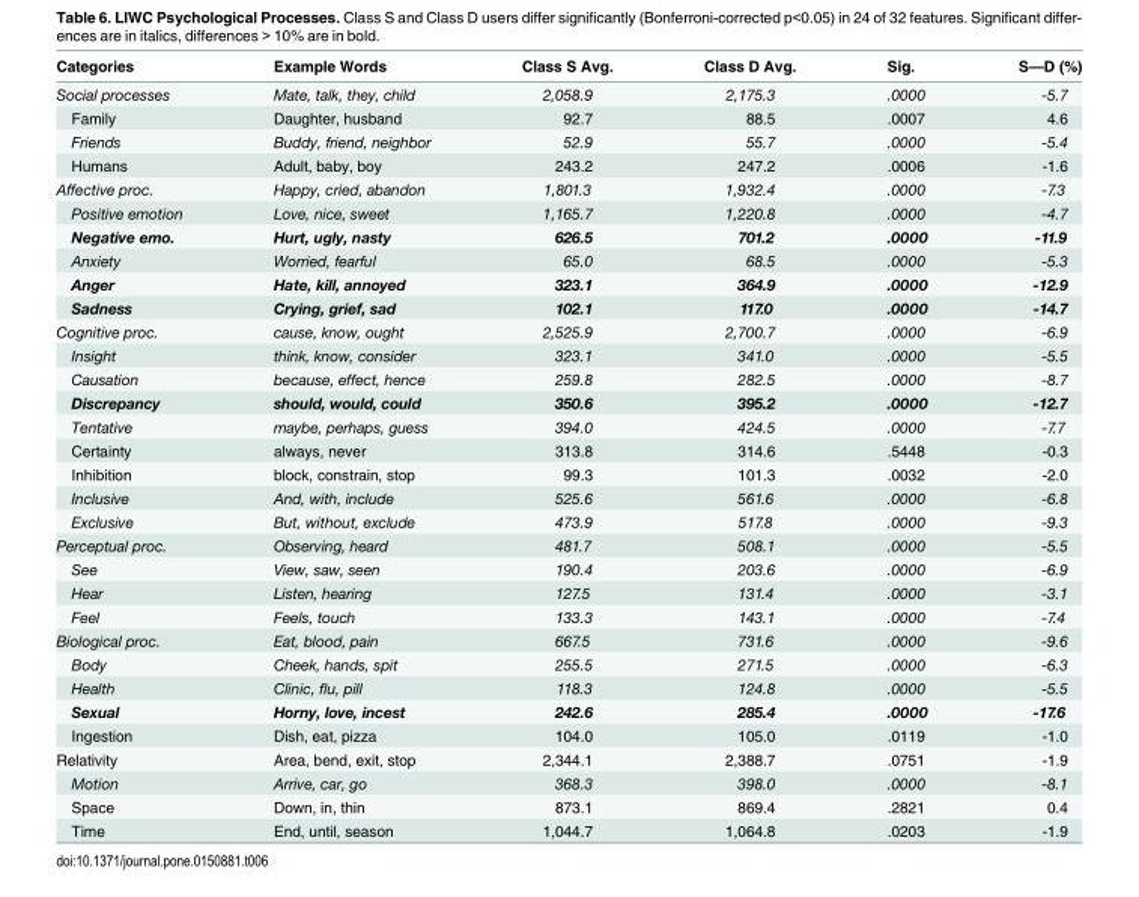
<table><thead><tr><td>Categories</td><td>Example Words</td><td>Class S Avg.</td><td>Class D Avg.</td><td>Sig.</td><td>S—D (%)</td></tr></thead><tbody><tr><td>Social processes</td><td>Mate, talk, they, child</td><td>2,058.9</td><td>2,175.3</td><td>.0000</td><td>-5.7</td></tr><tr><td>Family</td><td>Daughter, husband</td><td>92.7</td><td>88.5</td><td>.0007</td><td>4.6</td></tr><tr><td>Friends</td><td>Buddy, friend, neighbor</td><td>52.9</td><td>55.7</td><td>.0000</td><td>-5.4</td></tr><tr><td>Humans</td><td>Adult, baby, boy</td><td>243.2</td><td>247.2</td><td>.0006</td><td>-1.6</td></tr><tr><td>Affective proc.</td><td>Happy, cried, abandon</td><td>1,801.3</td><td>1,932.4</td><td>.0000</td><td>-7.3</td></tr><tr><td>Positive emotion</td><td>Love, nice, sweet</td><td>1,165.7</td><td>1,220.8</td><td>.0000</td><td>-4.7</td></tr><tr><td>Negative emo.</td><td>Hurt, ugly, nasty</td><td>626.5</td><td>701.2</td><td>.0000</td><td>-11.9</td></tr><tr><td>Anxiety</td><td>Worried, fearful</td><td>65.0</td><td>68.5</td><td>.0000</td><td>-5.3</td></tr><tr><td>Anger</td><td>Hate, kill, annoyed</td><td>323.1</td><td>364.9</td><td>.0000</td><td>-12.9</td></tr><tr><td>Sadness</td><td>Crying, grief, sad</td><td>102.1</td><td>117.0</td><td>.0000</td><td>-14.7</td></tr><tr><td>Cognitive proc.</td><td>cause, know, ought</td><td>2,525.9</td><td>2,700.7</td><td>.0000</td><td>-6.9</td></tr><tr><td>Insight</td><td>think, know, consider</td><td>323.1</td><td>341.0</td><td>.0000</td><td>-5.5</td></tr><tr><td>Causation</td><td>because, effect, hence</td><td>259.8</td><td>282.5</td><td>.0000</td><td>-8.7</td></tr><tr><td>Discrepancy</td><td>should, would, could</td><td>350.6</td><td>395.2</td><td>.0000</td><td>-12.7</td></tr><tr><td>Tentative</td><td>maybe, perhaps, guess</td><td>394.0</td><td>424.5</td><td>.0000</td><td>-7.7</td></tr><tr><td>Certainty</td><td>always, never</td><td>313.8</td><td>314.6</td><td>.5448</td><td>-0.3</td></tr><tr><td>Inhibition</td><td>block, constrain, stop</td><td>99.3</td><td>101.3</td><td>.0032</td><td>-2.0</td></tr><tr><td>Inclusive</td><td>And, with, include</td><td>525.6</td><td>561.6</td><td>.0000</td><td>-6.8</td></tr><tr><td>Exclusive</td><td>But, without, exclude</td><td>473.9</td><td>517.8</td><td>.0000</td><td>-9.3</td></tr><tr><td>Perceptual proc.</td><td>Observing, heard</td><td>481.7</td><td>508.1</td><td>.0000</td><td>-5.5</td></tr><tr><td>See</td><td>View, saw, seen</td><td>190.4</td><td>203.6</td><td>.0000</td><td>-6.9</td></tr><tr><td>Hear</td><td>Listen, hearing</td><td>127.5</td><td>131.4</td><td>.0000</td><td>-3.1</td></tr><tr><td>Feel</td><td>Feels, touch</td><td>133.3</td><td>143.1</td><td>.0000</td><td>-7.4</td></tr><tr><td>Biological proc.</td><td>Eat, blood, pain</td><td>667.5</td><td>731.6</td><td>.0000</td><td>-9.6</td></tr><tr><td>Body</td><td>Cheek, hands, spit</td><td>255.5</td><td>271.5</td><td>.0000</td><td>-6.3</td></tr><tr><td>Health</td><td>Clinic, flu, pill</td><td>118.3</td><td>124.8</td><td>.0000</td><td>-5.5</td></tr><tr><td>Sexual</td><td>Horny, love, incest</td><td>242.6</td><td>285.4</td><td>.0000</td><td>-17.6</td></tr><tr><td>Ingestion</td><td>Dish, eat, pizza</td><td>104.0</td><td>105.0</td><td>.0119</td><td>-1.0</td></tr><tr><td>Relativity</td><td>Area, bend, exit, stop</td><td>2,344.1</td><td>2,388.7</td><td>.0751</td><td>-1.9</td></tr><tr><td>Motion</td><td>Arrive, car, go</td><td>368.3</td><td>398.0</td><td>.0000</td><td>-8.1</td></tr><tr><td>Space</td><td>Down, in, thin</td><td>873.1</td><td>869.4</td><td>.2821</td><td>0.4</td></tr><tr><td>Time</td><td>End, until, season</td><td>1,044.7</td><td>1,064.8</td><td>.0203</td><td>-1.9</td></tr></tbody></table>